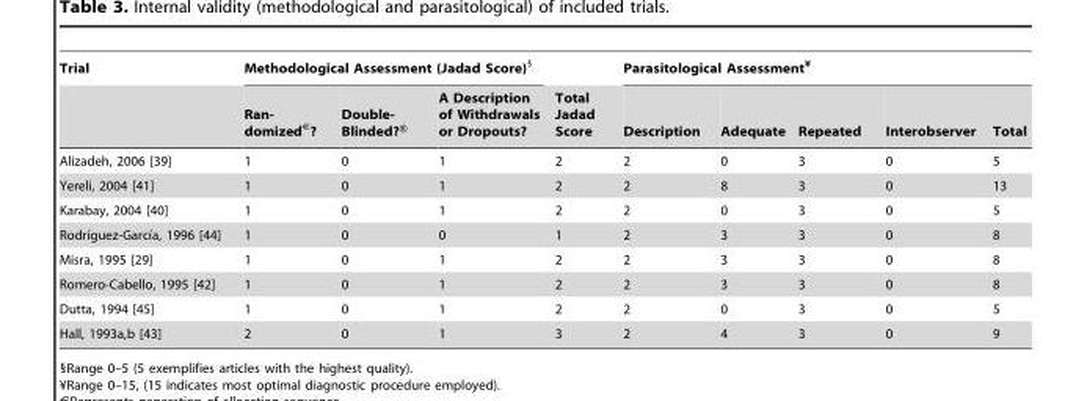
<table><thead><tr><td rowspan="2">Trial</td><td colspan="3">Methodological Assessment (Jadad Score)§</td><td rowspan="2">Total Jadad Score</td><td colspan="5">Parasitological Assessment¥</td></tr><tr><td>Ran- domizedJ?</td><td>Double- Blinded?®</td><td>A Description of Withdrawals or Dropouts?</td><td>Description</td><td>Adequate</td><td>Repeated</td><td>Interobserver</td><td>Total</td></tr></thead><tbody><tr><td>Alizadeh, 2006 [39]</td><td>1</td><td>0</td><td>1</td><td>2</td><td>2</td><td>0</td><td>3</td><td>0</td><td>5</td></tr><tr><td>Yereli, 2004 [41]</td><td>1</td><td>0</td><td>1</td><td>2</td><td>2</td><td>8</td><td>3</td><td>0</td><td>13</td></tr><tr><td>Karabay, 2004 [40]</td><td>1</td><td>0</td><td>1</td><td>2</td><td>2</td><td>0</td><td>3</td><td>0</td><td>5</td></tr><tr><td>Rodrı´guez-Garcı´a, 1996 [44]</td><td>1</td><td>0</td><td>0</td><td>1</td><td>2</td><td>3</td><td>3</td><td>0</td><td>8</td></tr><tr><td>Misra, 1995 [29]</td><td>1</td><td>0</td><td>1</td><td>2</td><td>2</td><td>3</td><td>3</td><td>0</td><td>8</td></tr><tr><td>Romero-Cabello, 1995 [42]</td><td>1</td><td>0</td><td>1</td><td>2</td><td>2</td><td>3</td><td>3</td><td>0</td><td>8</td></tr><tr><td>Dutta, 1994 [45]</td><td>1</td><td>0</td><td>1</td><td>2</td><td>2</td><td>0</td><td>3</td><td>0</td><td>5</td></tr><tr><td>Hall, 1993a,b [43]</td><td>2</td><td>0</td><td>1</td><td>3</td><td>2</td><td>4</td><td>3</td><td>0</td><td>9</td></tr></tbody></table>